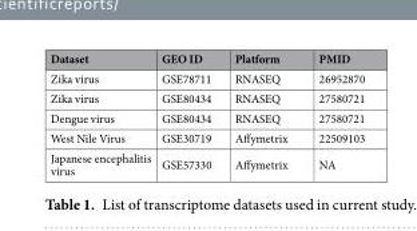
<table><thead><tr><td>Dataset</td><td>GEO ID</td><td>Platform</td><td>PMID</td></tr></thead><tbody><tr><td>Zika virus</td><td>GSE78711</td><td>RNASEQ</td><td>26952870</td></tr><tr><td>Zika virus</td><td>GSE80434</td><td>RNASEQ</td><td>27580721</td></tr><tr><td>Dengue virus</td><td>GSE80434</td><td>RNASEQ</td><td>27580721</td></tr><tr><td>West Nile Virus</td><td>GSE30719</td><td>Affymetrix</td><td>22509103</td></tr><tr><td>Japanese encephalitis virus</td><td>GSE57330</td><td>Affymetrix</td><td>NA</td></tr></tbody></table>